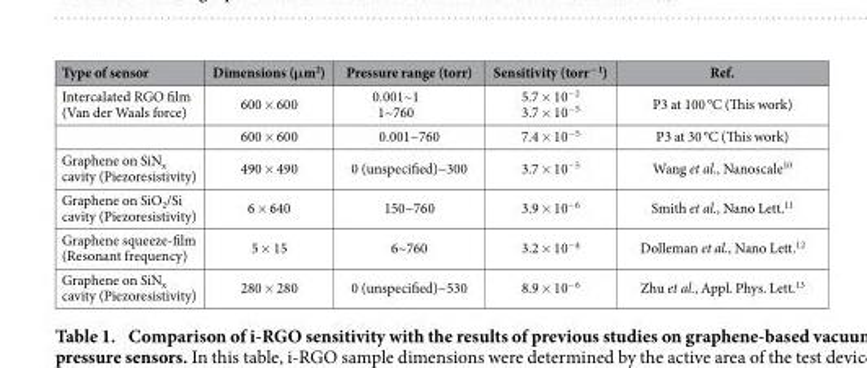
<table><thead><tr><td>Type of sensor</td><td>Dimensions (μm<sup>2</sup>)</td><td>Pressure range (torr)</td><td>Sensitivity (torr<sup>−1</sup>)</td><td>Ref.</td></tr></thead><tbody><tr><td rowspan="2">Intercalated RGO film (Van der Waals force)</td><td>600 × 600</td><td>0.001~1 1~760</td><td>5.7 × 10<sup>−2</sup> 3.7 × 10<sup>−5</sup></td><td>P3 at 100 °C (This work)</td></tr><tr><td>600 × 600</td><td>0.001~760</td><td>7.4 × 10<sup>−5</sup></td><td>P3 at 30 °C (This work)</td></tr><tr><td>Graphene on SiN<sub>x</sub> cavity (Piezoresistivity)</td><td>490 × 490</td><td>0 (unspecified)~300</td><td>3.7 × 10<sup>−5</sup></td><td>Wang et al., Nanoscale<sup>10</sup></td></tr><tr><td>Graphene on SiO<sub>2</sub>/Si cavity (Piezoresistivity)</td><td>6 × 640</td><td>150~760</td><td>3.9 × 10<sup>−6</sup></td><td>Smith et al., Nano Lett.<sup>11</sup></td></tr><tr><td>Graphene squeeze-film (Resonant frequency)</td><td>5 × 15</td><td>6~760</td><td>3.2 × 10<sup>−4</sup></td><td>Dolleman et al., Nano Lett.<sup>12</sup></td></tr><tr><td>Graphene on SiN<sub>x</sub> cavity (Piezoresistivity)</td><td>280 × 280</td><td>0 (unspecified)~530</td><td>8.9 × 10<sup>−6</sup></td><td>Zhu et al., Appl. Phys. Lett.<sup>13</sup></td></tr></tbody></table>